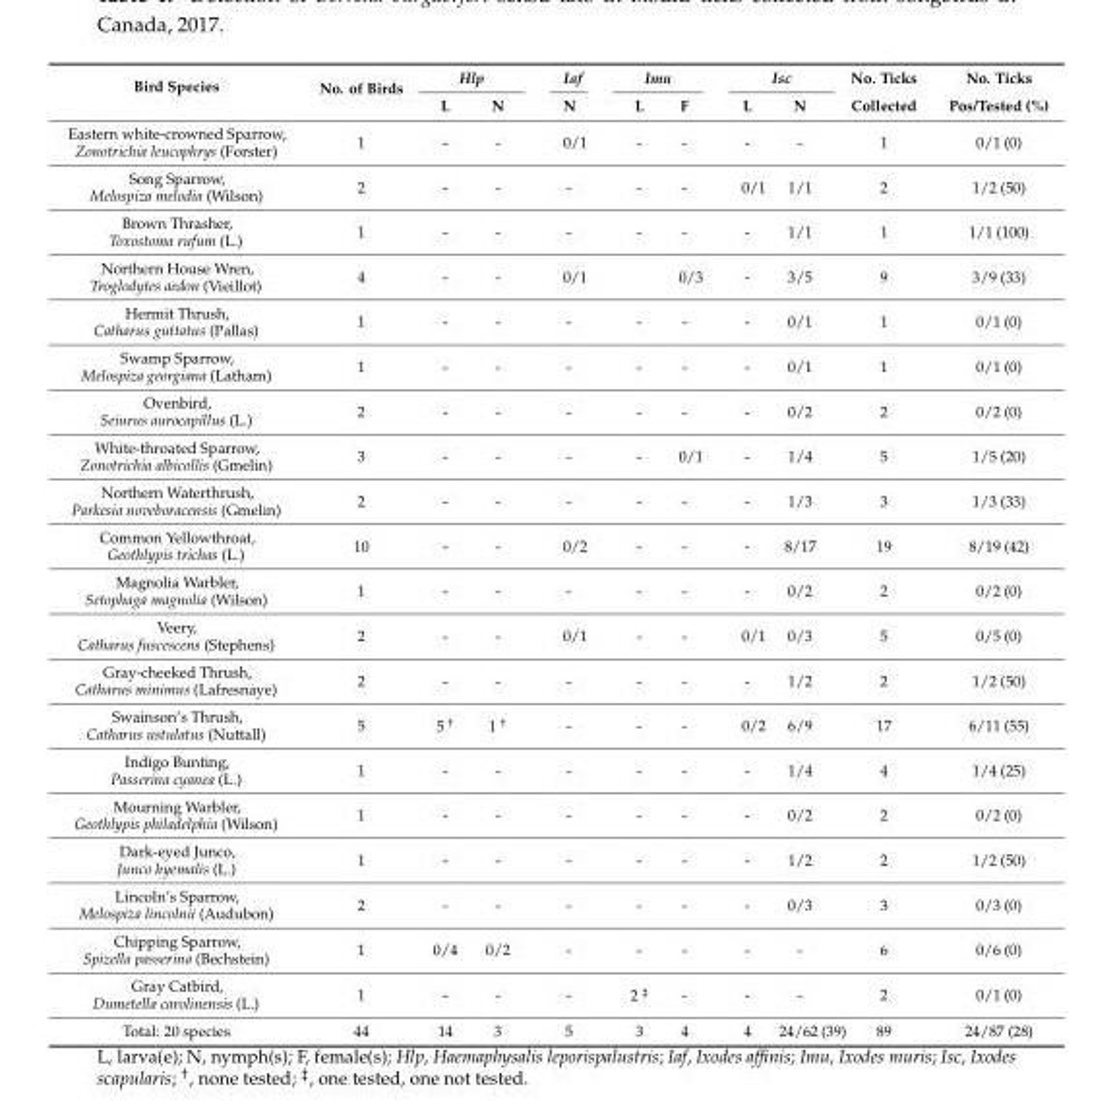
<table><thead><tr><td rowspan="2">Bird Species</td><td rowspan="2">No. of Birds</td><td colspan="2">Hlp</td><td rowspan="2">Iaf N</td><td colspan="2">Imu</td><td colspan="2">Isc</td><td rowspan="2">No. Ticks Collected</td><td rowspan="2">No. Ticks Pos/Tested (%)</td></tr><tr><td>L</td><td>N</td><td>L</td><td>F</td><td>L</td><td>N</td></tr></thead><tbody><tr><td>Eastern white-crowned Sparrow, Zonotrichia leucophrys (Forster)</td><td>1</td><td>-</td><td>-</td><td>0/1</td><td>-</td><td>-</td><td>-</td><td>-</td><td>1</td><td>0/1 (0)</td></tr><tr><td>Song Sparrow, Melospiza melodia (Wilson)</td><td>2</td><td>-</td><td>-</td><td>-</td><td>-</td><td>-</td><td>0/1</td><td>1/1</td><td>2</td><td>1/2 (50)</td></tr><tr><td>Brown Thrasher, Toxostoma rufum (L.)</td><td>1</td><td>-</td><td>-</td><td>-</td><td>-</td><td>-</td><td>-</td><td>1/1</td><td>1</td><td>1/1 (100)</td></tr><tr><td>Northern House Wren, Troglodytes aedon (Vieillot)</td><td>4</td><td>-</td><td>-</td><td>0/1</td><td></td><td>0/3</td><td>-</td><td>3/5</td><td>9</td><td>3/9 (33)</td></tr><tr><td>Hermit Thrush, Catharus guttatus (Pallas)</td><td>1</td><td>-</td><td>-</td><td>-</td><td>-</td><td>-</td><td>-</td><td>0/1</td><td>1</td><td>0/1 (0)</td></tr><tr><td>Swamp Sparrow, Melospiza georgiana (Latham)</td><td>1</td><td>-</td><td>-</td><td>-</td><td>-</td><td>-</td><td>-</td><td>0/1</td><td>1</td><td>0/1 (0)</td></tr><tr><td>Ovenbird, Seiurus aurocapillus (L.)</td><td>2</td><td>-</td><td>-</td><td>-</td><td>-</td><td>-</td><td>-</td><td>0/2</td><td>2</td><td>0/2 (0)</td></tr><tr><td>White-throated Sparrow, Zonotrichia albicollis (Gmelin)</td><td>3</td><td>-</td><td>-</td><td>-</td><td>-</td><td>0/1</td><td>-</td><td>1/4</td><td>5</td><td>1/5 (20)</td></tr><tr><td>Northern Waterthrush, Parkesia noveboracensis (Gmelin)</td><td>2</td><td>-</td><td>-</td><td>-</td><td>-</td><td>-</td><td>-</td><td>1/3</td><td>3</td><td>1/3 (33)</td></tr><tr><td>Common Yellowthroat, Geothlypis trichas (L.)</td><td>10</td><td>-</td><td>-</td><td>0/2</td><td>-</td><td>-</td><td>-</td><td>8/17</td><td>19</td><td>8/19 (42)</td></tr><tr><td>Magnolia Warbler, Setophaga magnolia (Wilson)</td><td>1</td><td>-</td><td>-</td><td>-</td><td>-</td><td>-</td><td>-</td><td>0/2</td><td>2</td><td>0/2 (0)</td></tr><tr><td>Veery, Catharus fuscescens (Stephens)</td><td>2</td><td>-</td><td>-</td><td>0/1</td><td>-</td><td>-</td><td>0/1</td><td>0/3</td><td>5</td><td>0/5 (0)</td></tr><tr><td>Gray-cheeked Thrush, Catharus minimus (Lafresnaye)</td><td>2</td><td>-</td><td>-</td><td>-</td><td>-</td><td>-</td><td>-</td><td>1/2</td><td>2</td><td>1/2 (50)</td></tr><tr><td>Swainson’s Thrush, Catharus ustulatus (Nuttall)</td><td>5</td><td>5 <sup>†</sup></td><td>1 <sup>†</sup></td><td>-</td><td>-</td><td>-</td><td>0/2</td><td>6/9</td><td>17</td><td>6/11 (55)</td></tr><tr><td>Indigo Bunting, Passerina cyanea (L.)</td><td>1</td><td>-</td><td>-</td><td>-</td><td>-</td><td>-</td><td>-</td><td>1/4</td><td>4</td><td>1/4 (25)</td></tr><tr><td>Mourning Warbler, Geothlypis philadelphia (Wilson)</td><td>1</td><td>-</td><td>-</td><td>-</td><td>-</td><td>-</td><td>-</td><td>0/2</td><td>2</td><td>0/2 (0)</td></tr><tr><td>Dark-eyed Junco, Junco hyemalis (L.)</td><td>1</td><td>-</td><td>-</td><td>-</td><td>-</td><td>-</td><td>-</td><td>1/2</td><td>2</td><td>1/2 (50)</td></tr><tr><td>Lincoln’s Sparrow, Melospiza lincolnii (Audubon)</td><td>2</td><td>-</td><td>-</td><td>-</td><td>-</td><td>-</td><td>-</td><td>0/3</td><td>3</td><td>0/3 (0)</td></tr><tr><td>Chipping Sparrow, Spizella passerina (Bechstein)</td><td>1</td><td>0/4</td><td>0/2</td><td>-</td><td>-</td><td>-</td><td>-</td><td>-</td><td>6</td><td>0/6 (0)</td></tr><tr><td>Gray Catbird, Dumetella carolinensis (L.)</td><td>1</td><td>-</td><td>-</td><td>-</td><td>2 <sup>‡</sup></td><td>-</td><td>-</td><td>-</td><td>2</td><td>0/1 (0)</td></tr><tr><td>Total: 20 species</td><td>44</td><td>14</td><td>3</td><td>5</td><td>3</td><td>4</td><td>4</td><td>24/62 (39)</td><td>89</td><td>24/87 (28)</td></tr></tbody></table>